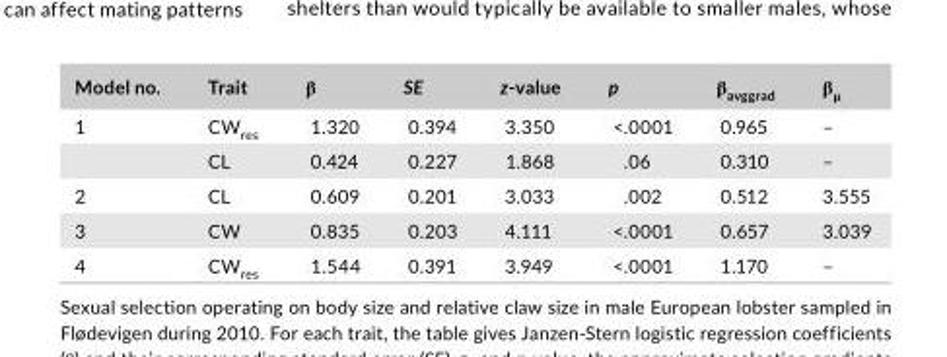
<table><thead><tr><td>Model no.</td><td>Trait</td><td>β</td><td>SE</td><td>z- value</td><td>p</td><td>β<sub>avggrad</sub></td><td>β<sub>μ</sub></td></tr></thead><tbody><tr><td rowspan="2">1</td><td>CW<sub>res</sub></td><td>1.320</td><td>0.394</td><td>3.350</td><td>&lt;.0001</td><td>0.965</td><td>–</td></tr><tr><td>CL</td><td>0.424</td><td>0.227</td><td>1.868</td><td>.06</td><td>0.310</td><td>–</td></tr><tr><td>2</td><td>CL</td><td>0.609</td><td>0.201</td><td>3.033</td><td>.002</td><td>0.512</td><td>3.555</td></tr><tr><td>3</td><td>CW</td><td>0.835</td><td>0.203</td><td>4.111</td><td>&lt;.0001</td><td>0.657</td><td>3.039</td></tr><tr><td>4</td><td>CW<sub>res</sub></td><td>1.544</td><td>0.391</td><td>3.949</td><td>&lt;.0001</td><td>1.170</td><td>–</td></tr></tbody></table>